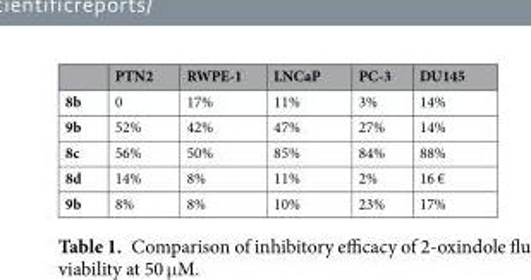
<table><thead><tr><td></td><td>PTN2</td><td>RWPE-1</td><td>LNCaP</td><td>PC-3</td><td>DU145</td></tr></thead><tbody><tr><td>8b</td><td>0</td><td>17%</td><td>11%</td><td>3%</td><td>14%</td></tr><tr><td>9b</td><td>52%</td><td>42%</td><td>47%</td><td>27%</td><td>14%</td></tr><tr><td>8c</td><td>56%</td><td>50%</td><td>85%</td><td>84%</td><td>88%</td></tr><tr><td>8d</td><td>14%</td><td>8%</td><td>11%</td><td>2%</td><td>16 €</td></tr><tr><td>9b</td><td>8%</td><td>8%</td><td>10%</td><td>23%</td><td>17%</td></tr></tbody></table>